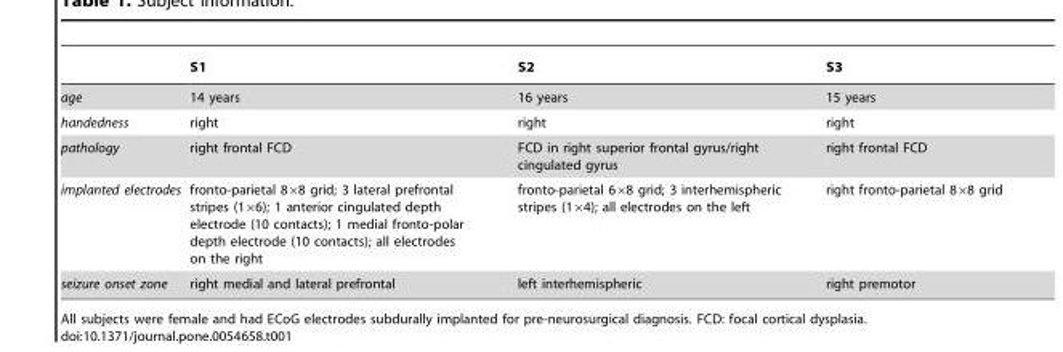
<table><thead><tr><td></td><td>S1</td><td>S2</td><td>S3</td></tr></thead><tbody><tr><td>age</td><td>14 years</td><td>16 years</td><td>15 years</td></tr><tr><td>handedness</td><td>right</td><td>right</td><td>right</td></tr><tr><td>pathology</td><td>right frontal FCD</td><td>FCD in right superior frontal gyrus/right cingulated gyrus</td><td>right frontal FCD</td></tr><tr><td>implanted electrodes</td><td>fronto-parietal 8×8 grid; 3 lateral prefrontal stripes (1×6); 1 anterior cingulated depth electrode (10 contacts); 1 medial fronto-polar depth electrode (10 contacts); all electrodes on the right</td><td>fronto-parietal 6×8 grid; 3 interhemispheric stripes (1×4); all electrodes on the left</td><td>right fronto-parietal 8×8 grid</td></tr><tr><td>seizure onset zone</td><td>right medial and lateral prefrontal</td><td>left interhemispheric</td><td>right premotor</td></tr></tbody></table>